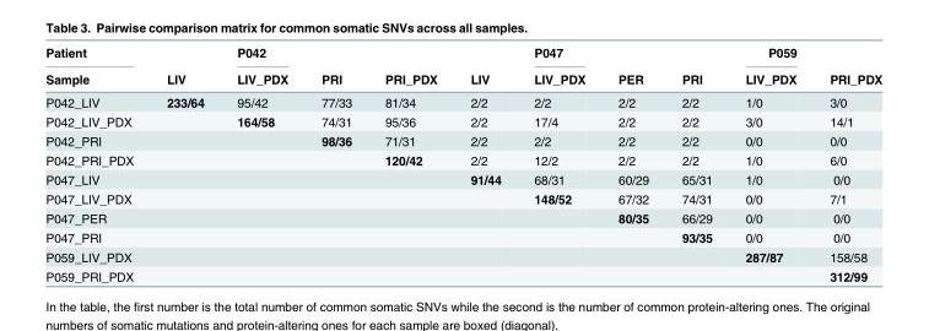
<table><thead><tr><td rowspan="2">Patient Sample</td><td rowspan="2">LIV</td><td rowspan="2">P042 LIV_PDX</td><td rowspan="2">PRI</td><td rowspan="2">PRI_PDX</td><td rowspan="2">LIV</td><td rowspan="2">P047 LIV_PDX</td><td rowspan="2">PER</td><td rowspan="2">PRI</td><td rowspan="2">P059 LIV_PDX</td><td rowspan="2">PRI_PDX</td></tr><tr></tr></thead><tbody><tr><td>P042_LIV</td><td>233/64</td><td>95/42</td><td>77/33</td><td>81/34</td><td>2/2</td><td>2/2</td><td>2/2</td><td>2/2</td><td>1/0</td><td>3/0</td></tr><tr><td>P042_LIV_PDX</td><td></td><td>164/58</td><td>74/31</td><td>95/36</td><td>2/2</td><td>17/4</td><td>2/2</td><td>2/2</td><td>3/0</td><td>14/1</td></tr><tr><td>P042_PRI</td><td></td><td></td><td>98/36</td><td>71/31</td><td>2/2</td><td>2/2</td><td>2/2</td><td>2/2</td><td>0/0</td><td>0/0</td></tr><tr><td>P042_PRI_PDX</td><td></td><td></td><td></td><td>120/42</td><td>2/2</td><td>12/2</td><td>2/2</td><td>2/2</td><td>1/0</td><td>6/0</td></tr><tr><td>P047_LIV</td><td></td><td></td><td></td><td></td><td>91/44</td><td>68/31</td><td>60/29</td><td>65/31</td><td>1/0</td><td>0/0</td></tr><tr><td>P047_LIV_PDX</td><td></td><td></td><td></td><td></td><td></td><td>148/52</td><td>67/32</td><td>74/31</td><td>0/0</td><td>7/1</td></tr><tr><td>P047_PER</td><td></td><td></td><td></td><td></td><td></td><td></td><td>80/35</td><td>66/29</td><td>0/0</td><td>0/0</td></tr><tr><td>P047_PRI</td><td></td><td></td><td></td><td></td><td></td><td></td><td></td><td>93/35</td><td>0/0</td><td>0/0</td></tr><tr><td>P059_LIV_PDX</td><td></td><td></td><td></td><td></td><td></td><td></td><td></td><td></td><td>287/87</td><td>158/58</td></tr><tr><td>P059_PRI_PDX</td><td></td><td></td><td></td><td></td><td></td><td></td><td></td><td></td><td></td><td>312/99</td></tr></tbody></table>